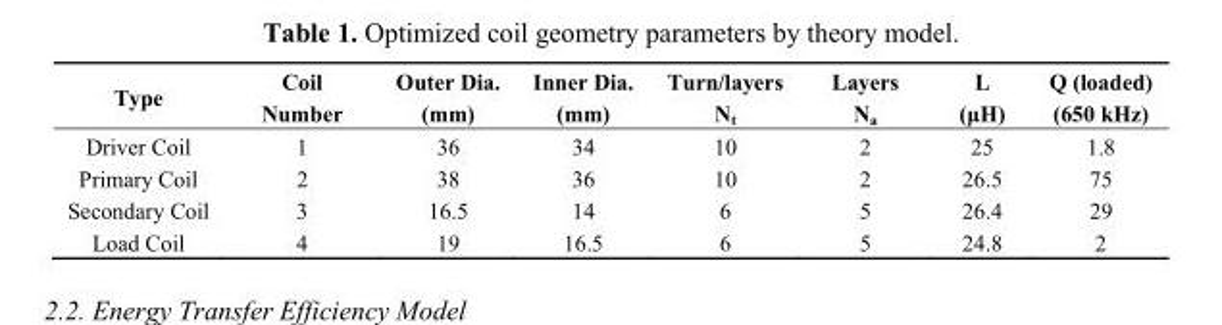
<table><thead><tr><td>Type</td><td>Coil Number</td><td>Outer Dia. (mm)</td><td>Inner Dia. (mm)</td><td>Turn/layers N<sub>t</sub></td><td>Layers N<sub>a</sub></td><td>L (μH)</td><td>Q (loaded) (650 kHz)</td></tr></thead><tbody><tr><td>Driver Coil</td><td>1</td><td>36</td><td>34</td><td>10</td><td>2</td><td>25</td><td>1.8</td></tr><tr><td>Primary Coil</td><td>2</td><td>38</td><td>36</td><td>10</td><td>2</td><td>26.5</td><td>75</td></tr><tr><td>Secondary Coil</td><td>3</td><td>16.5</td><td>14</td><td>6</td><td>5</td><td>26.4</td><td>29</td></tr><tr><td>Load Coil</td><td>4</td><td>19</td><td>16.5</td><td>6</td><td>5</td><td>24.8</td><td>2</td></tr></tbody></table>